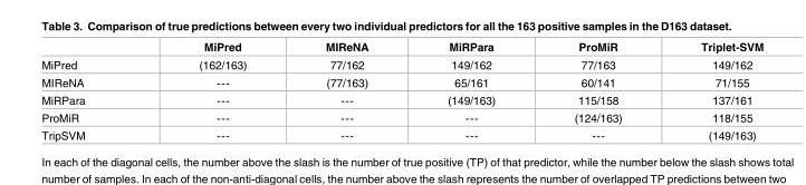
<table><thead><tr><td></td><td>MiPred</td><td>MIReNA</td><td>MiRPara</td><td>ProMiR</td><td>Triplet-SVM</td></tr></thead><tbody><tr><td>MiPred</td><td>(162/163)</td><td>77/162</td><td>149/162</td><td>77/163</td><td>149/162</td></tr><tr><td>MIReNA</td><td>---</td><td>(77/163)</td><td>65/161</td><td>60/141</td><td>71/155</td></tr><tr><td>MiRPara</td><td>---</td><td>---</td><td>(149/163)</td><td>115/158</td><td>137/161</td></tr><tr><td>ProMiR</td><td>---</td><td>---</td><td>---</td><td>(124/163)</td><td>118/155</td></tr><tr><td>TripSVM</td><td>---</td><td>---</td><td>---</td><td>---</td><td>(149/163)</td></tr></tbody></table>